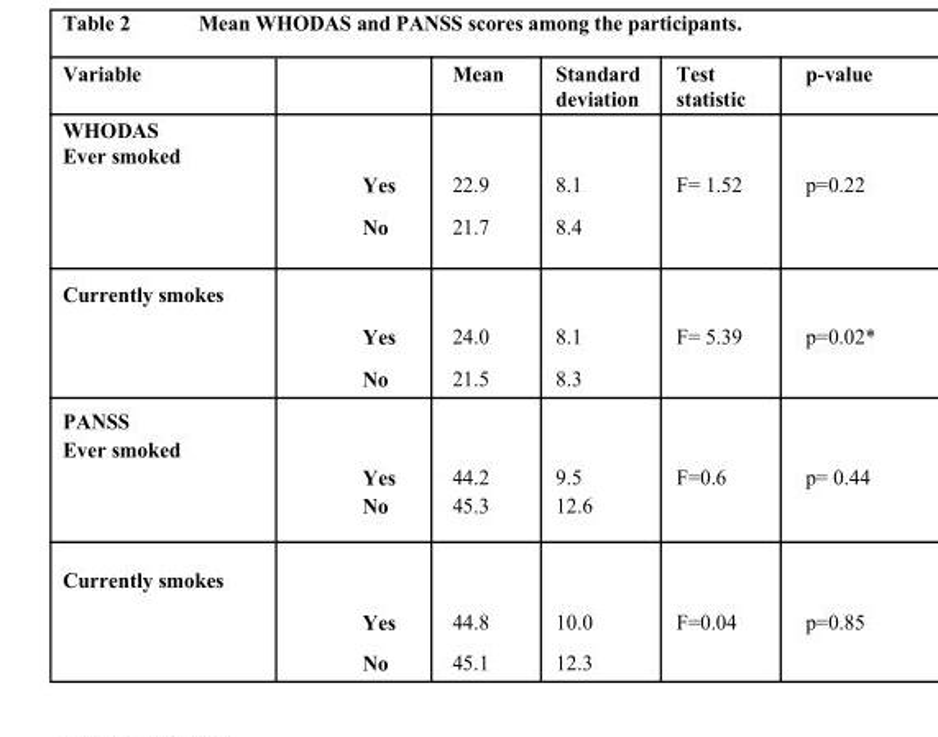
<table><thead><tr><td>Variable</td><td></td><td>Mean</td><td>Standard deviation</td><td>Test statistic</td><td>p-value</td></tr></thead><tbody><tr><td rowspan="2">WHODAS Ever smoked</td><td>Yes</td><td>22.9</td><td>8.1</td><td>F= 1.52</td><td>p=0.22</td></tr><tr><td>No</td><td>21.7</td><td>8.4</td><td></td><td></td></tr><tr><td colspan="6">Currently smokes</td></tr><tr><td></td><td>Yes</td><td>24.0</td><td>8.1</td><td>F= 5.39</td><td>p=0.02*</td></tr><tr><td></td><td>No</td><td>21.5</td><td>8.3</td><td></td><td></td></tr><tr><td colspan="6">PANSS Ever smoked</td></tr><tr><td></td><td>Yes</td><td>44.2</td><td>9.5</td><td>F=0.6</td><td>p= 0.44</td></tr><tr><td></td><td>No</td><td>45.3</td><td>12.6</td><td></td><td></td></tr><tr><td colspan="6">Currently smokes</td></tr><tr><td></td><td>Yes</td><td>44.8</td><td>10.0</td><td>F=0.04</td><td>p=0.85</td></tr><tr><td></td><td>No</td><td>45.1</td><td>12.3</td><td></td><td></td></tr></tbody></table>